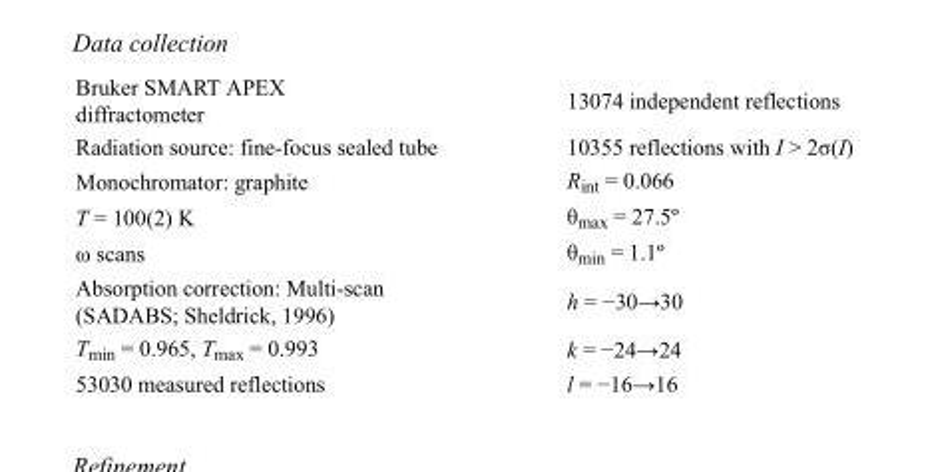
<table><tbody><tr><td>Bruker SMART APEX diffractometer</td><td>13074 independent reflections</td></tr><tr><td>Radiation source: fine-focus sealed tube</td><td>10355 reflections with I &gt; 2σ(I)</td></tr><tr><td>Monochromator: graphite</td><td>R<sub>int</sub> = 0.066</td></tr><tr><td>T = 100(2) K</td><td>θ<sub>max</sub> = 27.5º</td></tr><tr><td>ω scans</td><td>θ<sub>min</sub> = 1.1º</td></tr><tr><td>Absorption correction: Multi-scan (SADABS; Sheldrick, 1996)</td><td>h = −30→30</td></tr><tr><td>T<sub>min</sub> = 0.965, T<sub>max</sub> = 0.993</td><td>k = −24→24</td></tr><tr><td>53030 measured reflections</td><td>l = −16→16</td></tr></tbody></table>